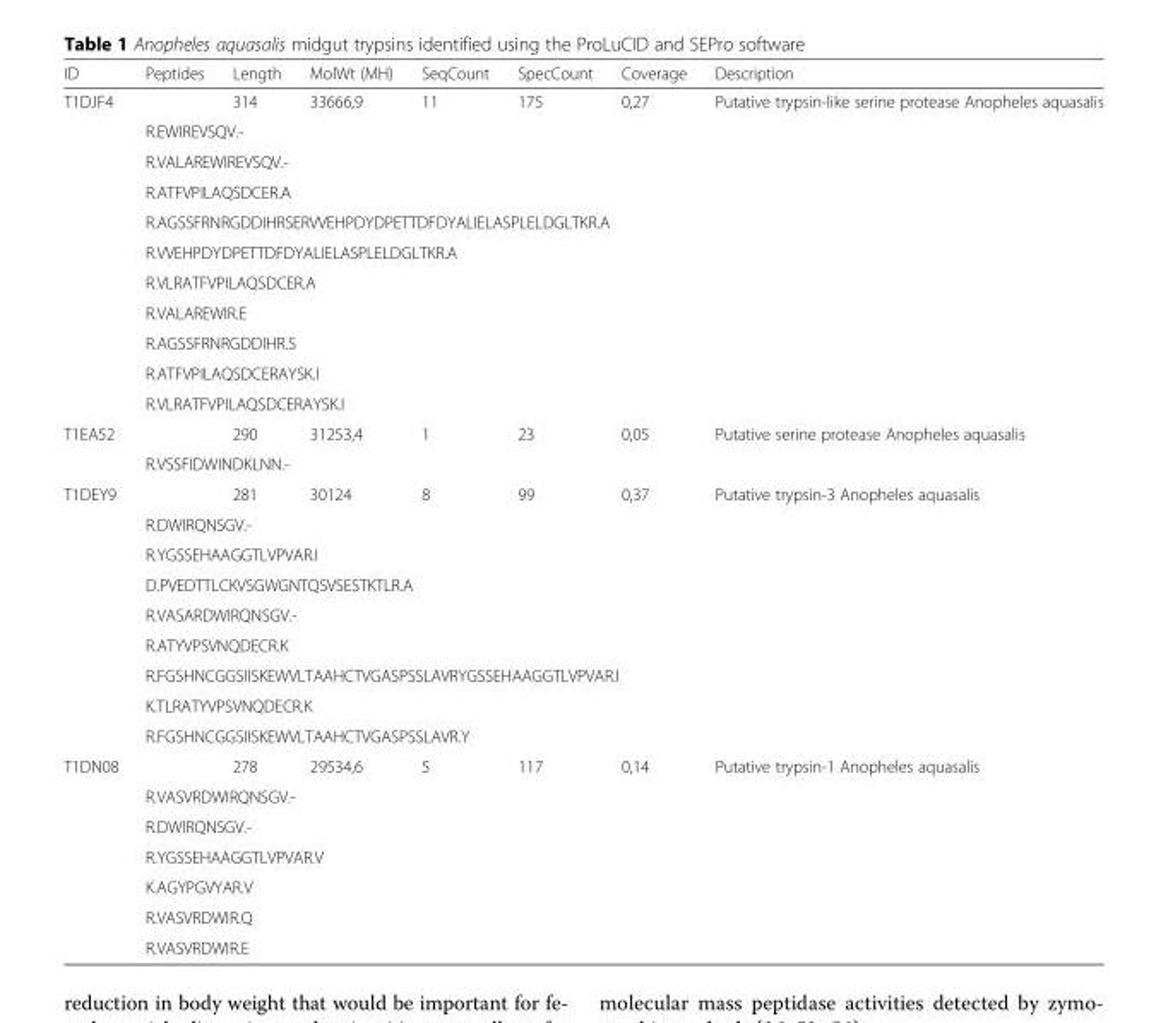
<table><thead><tr><td>ID</td><td>Peptides</td><td>Length</td><td>MolWt (MH)</td><td>SeqCount</td><td>SpecCount</td><td>Coverage</td><td>Description</td></tr></thead><tbody><tr><td rowspan="11">T1DJF4</td><td></td><td>314</td><td>33666,9</td><td>11</td><td>175</td><td>0,27</td><td>Putative trypsin-like serine protease Anopheles aquasalis</td></tr><tr><td colspan="6">R.EWIREVSQV.-</td><td></td></tr><tr><td colspan="6">R.VALAREWIREVSQV.-</td><td></td></tr><tr><td colspan="6">R.ATFVPILAQSDCER.A</td><td></td></tr><tr><td colspan="6">R.AGSSFRNRGDDIHRSERVVEHPDYDPETTDFDYALIELASPLELDGLTKR.A</td><td></td></tr><tr><td colspan="6">R.VVEHPDYDPETTDFDYALIELASPLELDGLTKR.A</td><td></td></tr><tr><td colspan="6">R.VLRATFVPILAQSDCER.A</td><td></td></tr><tr><td colspan="6">R.VALAREWIR.E</td><td></td></tr><tr><td colspan="6">R.AGSSFRNRGDDIHR.S</td><td></td></tr><tr><td colspan="6">R.ATFVPILAQSDCERAYSK.I</td><td></td></tr><tr><td colspan="6">R.VLRATFVPILAQSDCERAYSK.I</td><td></td></tr><tr><td rowspan="2">T1EA52</td><td></td><td>290</td><td>31253,4</td><td>1</td><td>23</td><td>0,05</td><td>Putative serine protease Anopheles aquasalis</td></tr><tr><td colspan="6">R.VSSFIDWINDKLNN.-</td><td></td></tr><tr><td rowspan="9">T1DEY9</td><td></td><td>281</td><td>30124</td><td>8</td><td>99</td><td>0,37</td><td>Putative trypsin-3 Anopheles aquasalis</td></tr><tr><td colspan="6">R.DWIRQNSGV.-</td><td></td></tr><tr><td colspan="6">R.YGSSEHAAGGTLVPVAR.I</td><td></td></tr><tr><td colspan="6">D.PVEDTTLCKVSGWGNTQSVSESTKTLR.A</td><td></td></tr><tr><td colspan="6">R.VASARDWIRQNSGV.-</td><td></td></tr><tr><td colspan="6">R.ATYVPSVNQDECR.K</td><td></td></tr><tr><td colspan="6">R.FGSHNCGGSIISKEWVLTAAHCTVGASPSSLAVRYGSSEHAAGGTLVPVAR.I</td><td></td></tr><tr><td colspan="6">K.TLRATYVPSVNQDECR.K</td><td></td></tr><tr><td colspan="6">R.FGSHNCGGSIISKEWVLTAAHCTVGASPSSLAVR.Y</td><td></td></tr><tr><td rowspan="7">T1DN08</td><td></td><td>278</td><td>29534,6</td><td>5</td><td>117</td><td>0,14</td><td>Putative trypsin-1 Anopheles aquasalis</td></tr><tr><td colspan="6">R.VASVRDWIRQNSGV.-</td><td></td></tr><tr><td colspan="6">R.DWIRQNSGV.-</td><td></td></tr><tr><td colspan="6">R.YGSSEHAAGGTLVPVAR.V</td><td></td></tr><tr><td colspan="6">K.AGYPGVYAR.V</td><td></td></tr><tr><td colspan="6">R.VASVRDWIR.Q</td><td></td></tr><tr><td colspan="6">R.VASVRDWIR.E</td><td></td></tr></tbody></table>